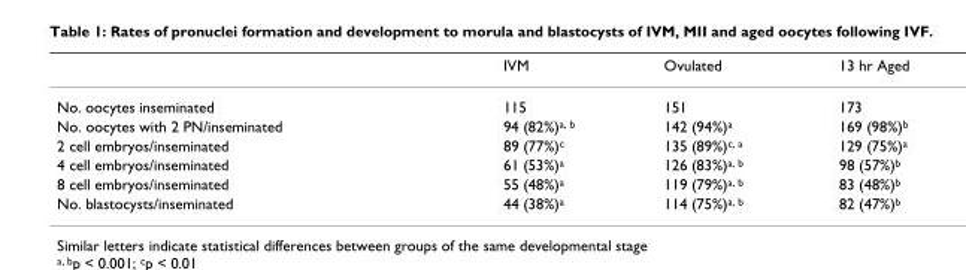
<table><thead><tr><td></td><td>IVM</td><td>Ovulated</td><td>13 hr Aged</td></tr></thead><tbody><tr><td>No. oocytes inseminated</td><td>115</td><td>151</td><td>173</td></tr><tr><td>No. oocytes with 2 PN/inseminated</td><td>94 (82%)<sup>a, b</sup></td><td>142 (94%)<sup>a</sup></td><td>169 (98%)<sup>b</sup></td></tr><tr><td>2 cell embryos/inseminated</td><td>89 (77%)<sup>c</sup></td><td>135 (89%)<sup>c, a</sup></td><td>129 (75%)<sup>a</sup></td></tr><tr><td>4 cell embryos/inseminated</td><td>61 (53%)<sup>a</sup></td><td>126 (83%)<sup>a, b</sup></td><td>98 (57%)<sup>b</sup></td></tr><tr><td>8 cell embryos/inseminated</td><td>55 (48%)<sup>a</sup></td><td>119 (79%)<sup>a, b</sup></td><td>83 (48%)<sup>b</sup></td></tr><tr><td>No. blastocysts/inseminated</td><td>44 (38%)<sup>a</sup></td><td>114 (75%)<sup>a, b</sup></td><td>82 (47%)<sup>b</sup></td></tr></tbody></table>